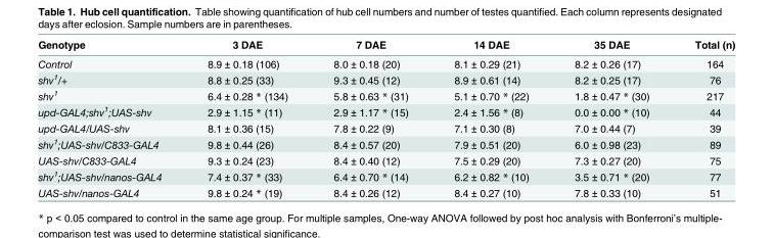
<table><thead><tr><td>Genotype</td><td>3 DAE</td><td>7 DAE</td><td>14 DAE</td><td>35 DAE</td><td>Total (n)</td></tr></thead><tbody><tr><td>Control</td><td>8.9 ± 0.18 (106)</td><td>8.0 ± 0.18 (20)</td><td>8.1 ± 0.29 (21)</td><td>8.2 ± 0.26 (17)</td><td>164</td></tr><tr><td>shv<sup>1</sup>/+</td><td>8.8 ± 0.25 (33)</td><td>9.3 ± 0.45 (12)</td><td>8.9 ± 0.61 (14)</td><td>8.2 ± 0.25 (17)</td><td>76</td></tr><tr><td>shv<sup>1</sup></td><td>6.4 ± 0.28 * (134)</td><td>5.8 ± 0.63 * (31)</td><td>5.1 ± 0.70 * (22)</td><td>1.8 ± 0.47 * (30)</td><td>217</td></tr><tr><td>upd-GAL4;shv<sup>1</sup>;UAS-shv</td><td>2.9 ± 1.15 * (11)</td><td>2.9 ± 1.17 * (15)</td><td>2.4 ± 1.56 * (8)</td><td>0.0 ± 0.00 * (10)</td><td>44</td></tr><tr><td>upd-GAL4/UAS-shv</td><td>8.1 ± 0.36 (15)</td><td>7.8 ± 0.22 (9)</td><td>7.1 ± 0.30 (8)</td><td>7.0 ± 0.44 (7)</td><td>39</td></tr><tr><td>shv<sup>1</sup>;UAS-shv/C833-GAL4</td><td>9.8 ± 0.44 (26)</td><td>8.4 ± 0.57 (20)</td><td>7.9 ± 0.51 (20)</td><td>6.0 ± 0.98 (23)</td><td>89</td></tr><tr><td>UAS-shv/C833-GAL4</td><td>9.3 ± 0.24 (23)</td><td>8.4 ± 0.40 (12)</td><td>7.5 ± 0.29 (20)</td><td>7.3 ± 0.27 (20)</td><td>75</td></tr><tr><td>shv<sup>1</sup>;UAS-shv/nanos-GAL4</td><td>7.4 ± 0.37 * (33)</td><td>6.4 ± 0.70 * (14)</td><td>6.2 ± 0.82 * (10)</td><td>3.5 ± 0.71 * (20)</td><td>77</td></tr><tr><td>UAS-shv/nanos-GAL4</td><td>9.8 ± 0.24 * (19)</td><td>8.4 ± 0.26 (12)</td><td>8.4 ± 0.27 (10)</td><td>7.8 ± 0.33 (10)</td><td>51</td></tr></tbody></table>